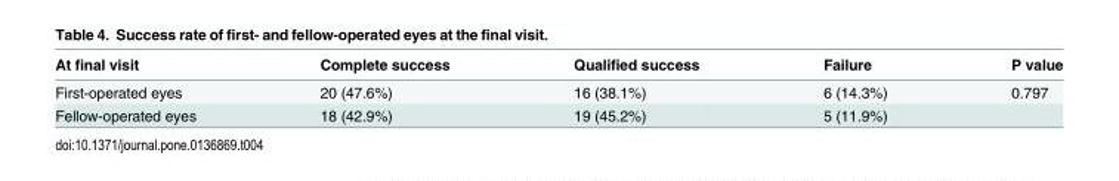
<table><thead><tr><td>At final visit</td><td>Complete success</td><td>Qualified success</td><td>Failure</td><td>P value</td></tr></thead><tbody><tr><td>First-operated eyes</td><td>20 (47.6%)</td><td>16 (38.1%)</td><td>6 (14.3%)</td><td>0.797</td></tr><tr><td>Fellow-operated eyes</td><td>18 (42.9%)</td><td>19 (45.2%)</td><td>5 (11.9%)</td><td></td></tr></tbody></table>